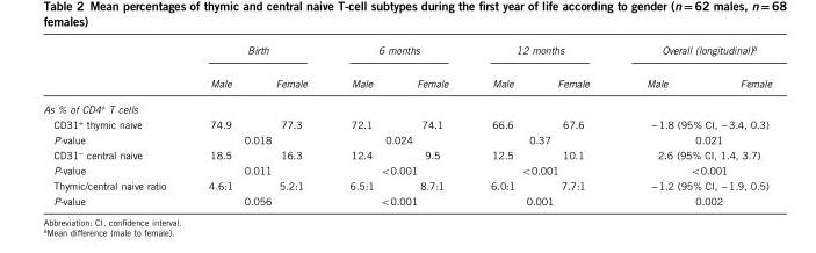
<table><thead><tr><td rowspan="2"></td><td colspan="2">Birth</td><td colspan="2">6 months</td><td colspan="2">12 months</td><td colspan="2">Overall (longitudinal)<sup>a</sup></td></tr><tr><td>Male</td><td>Female</td><td>Male</td><td>Female</td><td>Male</td><td>Female</td><td>Male</td><td>Female</td></tr></thead><tbody><tr><td colspan="9">As % of CD4<sup>+</sup> T cells</td></tr><tr><td>CD31<sup>+</sup> thymic naive</td><td>74.9</td><td>77.3</td><td>72.1</td><td>74.1</td><td>66.6</td><td>67.6</td><td colspan="2">− 1.8 (95% CI, − 3.4, 0.3)</td></tr><tr><td>P-value</td><td colspan="2">0.018</td><td colspan="2">0.024</td><td colspan="2">0.37</td><td colspan="2">0.021</td></tr><tr><td>CD31<sup>−</sup> central naive</td><td>18.5</td><td>16.3</td><td>12.4</td><td>9.5</td><td>12.5</td><td>10.1</td><td colspan="2">2.6 (95% CI, 1.4, 3.7)</td></tr><tr><td>P-value</td><td colspan="2">0.011</td><td colspan="2">&lt;0.001</td><td colspan="2">&lt;0.001</td><td colspan="2">&lt;0.001</td></tr><tr><td>Thymic/central naive ratio</td><td>4.6:1</td><td>5.2:1</td><td>6.5:1</td><td>8.7:1</td><td>6.0:1</td><td>7.7:1</td><td colspan="2">− 1.2 (95% CI, − 1.9, 0.5)</td></tr><tr><td>P-value</td><td colspan="2">0.056</td><td colspan="2">&lt;0.001</td><td colspan="2">0.001</td><td colspan="2">0.002</td></tr></tbody></table>